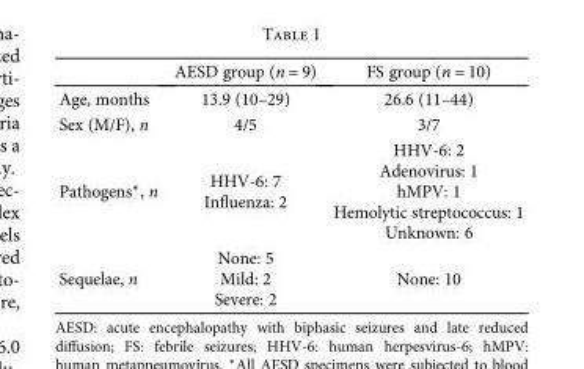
<table><thead><tr><td></td><td>AESD group (n = 9)</td><td>FS group (n = 10)</td></tr></thead><tbody><tr><td>Age, months</td><td>13.9 (10–29)</td><td>26.6 (11–44)</td></tr><tr><td>Sex (M/F), n</td><td>4/5</td><td>3/7</td></tr><tr><td>Pathogens∗, n</td><td>HHV-6: 7 Influenza: 2</td><td>HHV-6: 2 Adenovirus: 1 hMPV: 1 Hemolytic streptococcus: 1 Unknown: 6</td></tr><tr><td>Sequelae, n</td><td>None: 5 Mild: 2 Severe: 2</td><td>None: 10</td></tr></tbody></table>